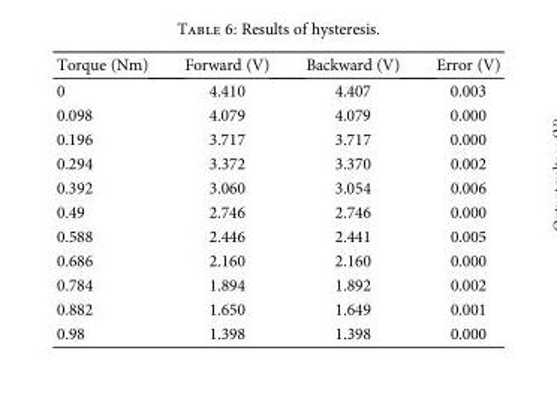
<table><thead><tr><td>Torque (Nm)</td><td>Forward (V)</td><td>Backward (V)</td><td>Error (V)</td></tr></thead><tbody><tr><td>0</td><td>4.410</td><td>4.407</td><td>0.003</td></tr><tr><td>0.098</td><td>4.079</td><td>4.079</td><td>0.000</td></tr><tr><td>0.196</td><td>3.717</td><td>3.717</td><td>0.000</td></tr><tr><td>0.294</td><td>3.372</td><td>3.370</td><td>0.002</td></tr><tr><td>0.392</td><td>3.060</td><td>3.054</td><td>0.006</td></tr><tr><td>0.49</td><td>2.746</td><td>2.746</td><td>0.000</td></tr><tr><td>0.588</td><td>2.446</td><td>2.441</td><td>0.005</td></tr><tr><td>0.686</td><td>2.160</td><td>2.160</td><td>0.000</td></tr><tr><td>0.784</td><td>1.894</td><td>1.892</td><td>0.002</td></tr><tr><td>0.882</td><td>1.650</td><td>1.649</td><td>0.001</td></tr><tr><td>0.98</td><td>1.398</td><td>1.398</td><td>0.000</td></tr></tbody></table>